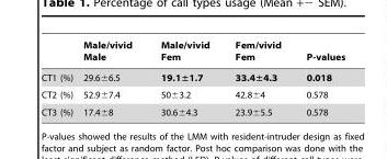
<table><thead><tr><td></td><td>Male/vivid Male</td><td>Male/vivid Fem</td><td>Fem/vivid Fem</td><td>P-values</td></tr></thead><tbody><tr><td>CT1 (%)</td><td>29.6±6.5</td><td>19.1±1.7</td><td>33.4±4.3</td><td>0.018</td></tr><tr><td>CT2 (%)</td><td>52.9±7.4</td><td>50±3.2</td><td>42.8±4</td><td>0.578</td></tr><tr><td>CT3 (%)</td><td>17.4±8</td><td>30.6±4.3</td><td>23.9±5.5</td><td>0.578</td></tr></tbody></table>